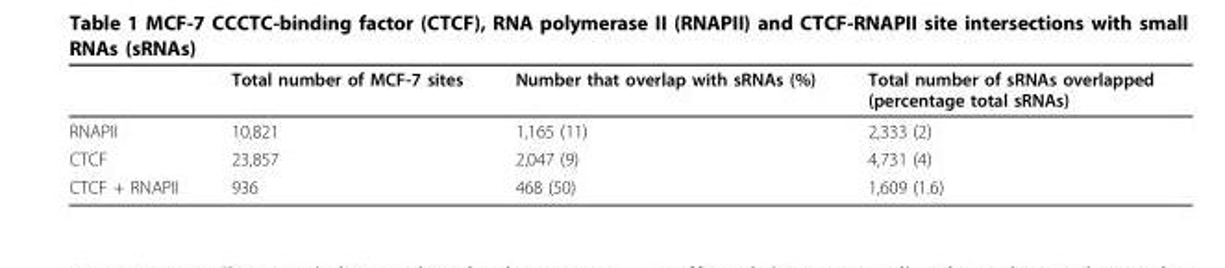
<table><thead><tr><td></td><td>Total number of MCF-7 sites</td><td>Number that overlap with sRNAs (%)</td><td>Total number of sRNAs overlapped (percentage total sRNAs)</td></tr></thead><tbody><tr><td>RNAPII</td><td>10,821</td><td>1,165 (11)</td><td>2,333 (2)</td></tr><tr><td>CTCF</td><td>23,857</td><td>2,047 (9)</td><td>4,731 (4)</td></tr><tr><td>CTCF + RNAPII</td><td>936</td><td>468 (50)</td><td>1,609 (1.6)</td></tr></tbody></table>